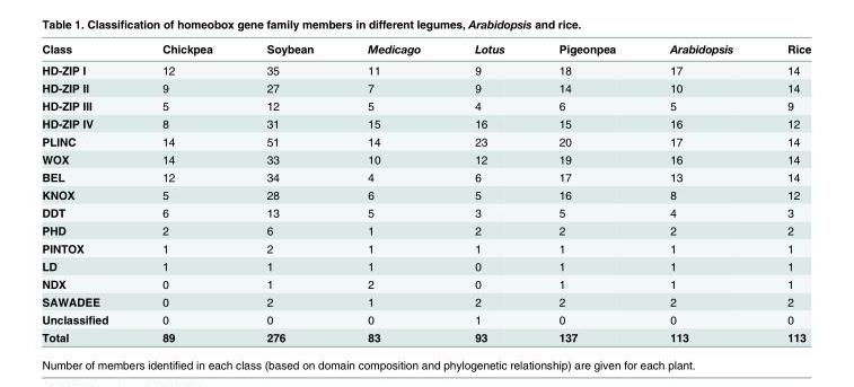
<table><thead><tr><td>Class</td><td>Chickpea</td><td>Soybean</td><td>Medicago</td><td>Lotus</td><td>Pigeonpea</td><td>Arabidopsis</td><td>Rice</td></tr></thead><tbody><tr><td>HD-ZIP I</td><td>12</td><td>35</td><td>11</td><td>9</td><td>18</td><td>17</td><td>14</td></tr><tr><td>HD-ZIP II</td><td>9</td><td>27</td><td>7</td><td>9</td><td>14</td><td>10</td><td>14</td></tr><tr><td>HD-ZIP III</td><td>5</td><td>12</td><td>5</td><td>4</td><td>6</td><td>5</td><td>9</td></tr><tr><td>HD-ZIP IV</td><td>8</td><td>31</td><td>15</td><td>16</td><td>15</td><td>16</td><td>12</td></tr><tr><td>PLINC</td><td>14</td><td>51</td><td>14</td><td>23</td><td>20</td><td>17</td><td>14</td></tr><tr><td>WOX</td><td>14</td><td>33</td><td>10</td><td>12</td><td>19</td><td>16</td><td>14</td></tr><tr><td>BEL</td><td>12</td><td>34</td><td>4</td><td>6</td><td>17</td><td>13</td><td>14</td></tr><tr><td>KNOX</td><td>5</td><td>28</td><td>6</td><td>5</td><td>16</td><td>8</td><td>12</td></tr><tr><td>DDT</td><td>6</td><td>13</td><td>5</td><td>3</td><td>5</td><td>4</td><td>3</td></tr><tr><td>PHD</td><td>2</td><td>6</td><td>1</td><td>2</td><td>2</td><td>2</td><td>2</td></tr><tr><td>PINTOX</td><td>1</td><td>2</td><td>1</td><td>1</td><td>1</td><td>1</td><td>1</td></tr><tr><td>LD</td><td>1</td><td>1</td><td>1</td><td>0</td><td>1</td><td>1</td><td>1</td></tr><tr><td>NDX</td><td>0</td><td>1</td><td>2</td><td>0</td><td>1</td><td>1</td><td>1</td></tr><tr><td>SAWADEE</td><td>0</td><td>2</td><td>1</td><td>2</td><td>2</td><td>2</td><td>2</td></tr><tr><td>Unclassified</td><td>0</td><td>0</td><td>0</td><td>1</td><td>0</td><td>0</td><td>0</td></tr><tr><td>Total</td><td>89</td><td>276</td><td>83</td><td>93</td><td>137</td><td>113</td><td>113</td></tr></tbody></table>